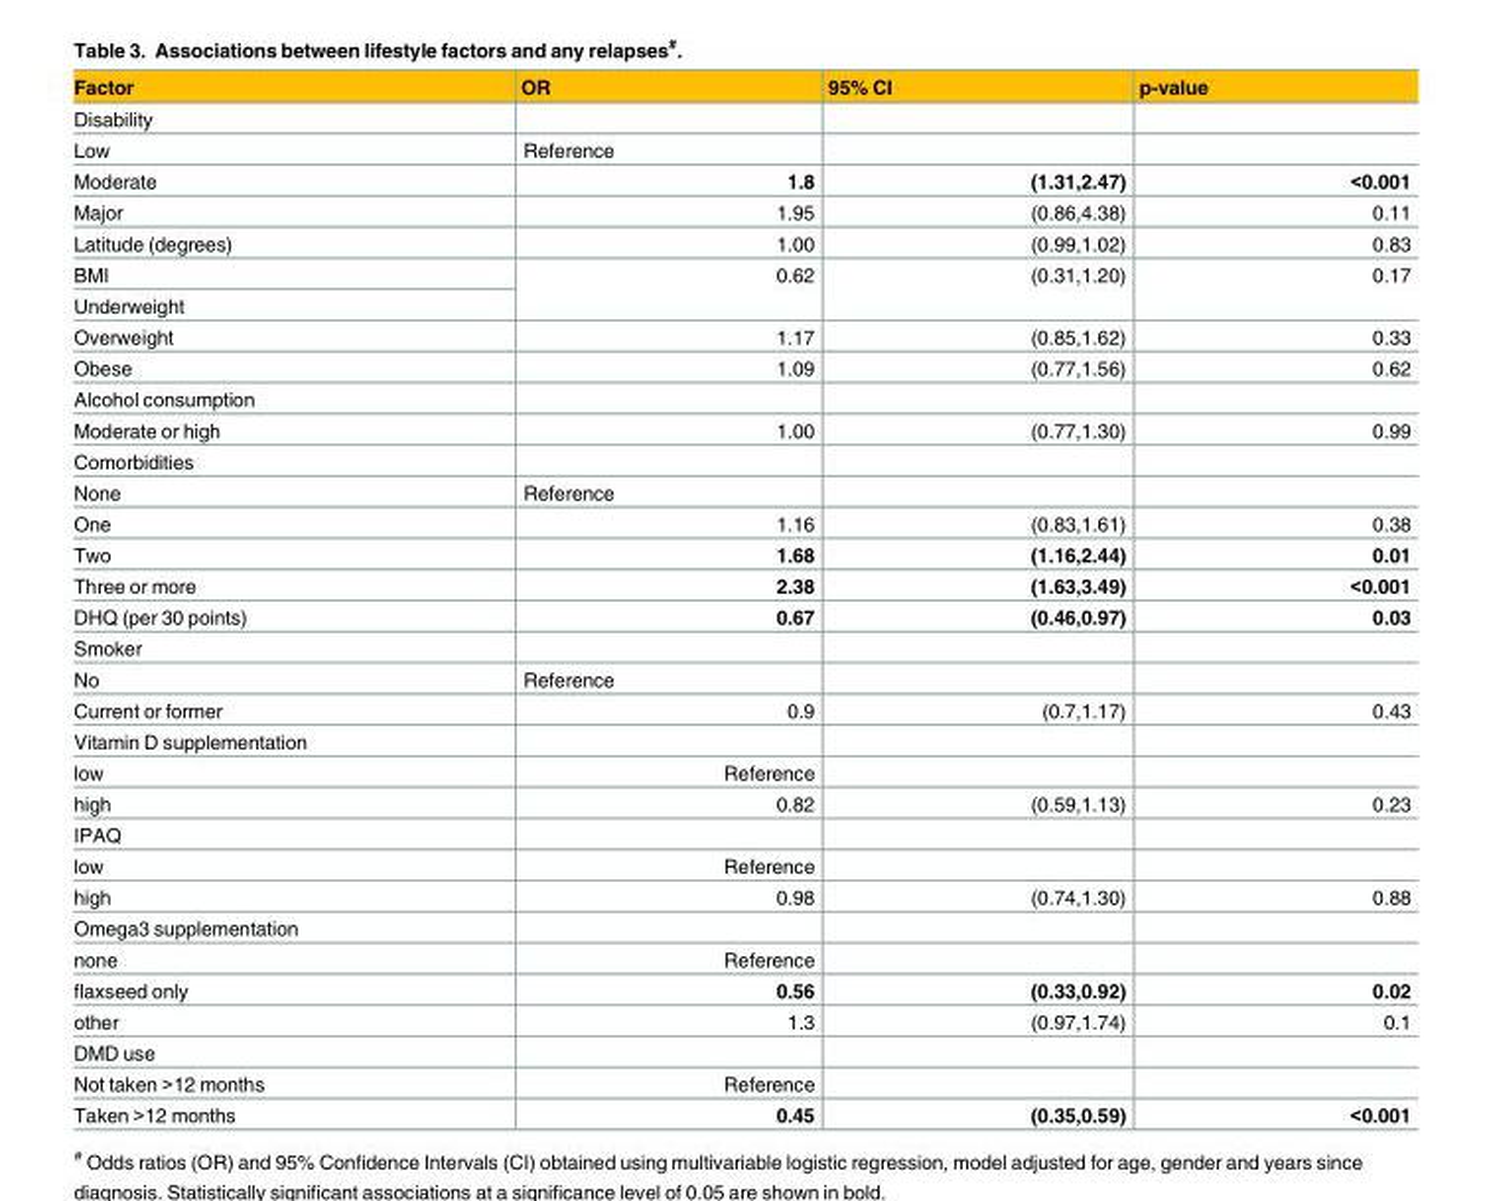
<table><thead><tr><td>Factor</td><td>OR</td><td>95% CI</td><td>p-value</td></tr></thead><tbody><tr><td colspan="4">Disability</td></tr><tr><td>Low</td><td>Reference</td><td></td><td></td></tr><tr><td>Moderate</td><td>1.8</td><td>(1.31,2.47)</td><td>&lt;0.001</td></tr><tr><td>Major</td><td>1.95</td><td>(0.86,4.38)</td><td>0.11</td></tr><tr><td>Latitude (degrees)</td><td>1.00</td><td>(0.99,1.02)</td><td>0.83</td></tr><tr><td>BMI</td><td rowspan="2">0.62</td><td rowspan="2">(0.31,1.20)</td><td rowspan="2">0.17</td></tr><tr><td>Underweight</td></tr><tr><td>Overweight</td><td>1.17</td><td>(0.85,1.62)</td><td>0.33</td></tr><tr><td>Obese</td><td>1.09</td><td>(0.77,1.56)</td><td>0.62</td></tr><tr><td colspan="4">Alcohol consumption</td></tr><tr><td>Moderate or high</td><td>1.00</td><td>(0.77,1.30)</td><td>0.99</td></tr><tr><td colspan="4">Comorbidities</td></tr><tr><td>None</td><td>Reference</td><td></td><td></td></tr><tr><td>One</td><td>1.16</td><td>(0.83,1.61)</td><td>0.38</td></tr><tr><td>Two</td><td>1.68</td><td>(1.16,2.44)</td><td>0.01</td></tr><tr><td>Three or more</td><td>2.38</td><td>(1.63,3.49)</td><td>&lt;0.001</td></tr><tr><td>DHQ (per 30 points)</td><td>0.67</td><td>(0.46,0.97)</td><td>0.03</td></tr><tr><td colspan="4">Smoker</td></tr><tr><td>No</td><td>Reference</td><td></td><td></td></tr><tr><td>Current or former</td><td>0.9</td><td>(0.7,1.17)</td><td>0.43</td></tr><tr><td colspan="4">Vitamin D supplementation</td></tr><tr><td>low</td><td>Reference</td><td></td><td></td></tr><tr><td>high</td><td>0.82</td><td>(0.59,1.13)</td><td>0.23</td></tr><tr><td colspan="4">IPAQ</td></tr><tr><td>low</td><td>Reference</td><td></td><td></td></tr><tr><td>high</td><td>0.98</td><td>(0.74,1.30)</td><td>0.88</td></tr><tr><td colspan="4">Omega3 supplementation</td></tr><tr><td>none</td><td>Reference</td><td></td><td></td></tr><tr><td>flaxseed only</td><td>0.56</td><td>(0.33,0.92)</td><td>0.02</td></tr><tr><td>other</td><td>1.3</td><td>(0.97,1.74)</td><td>0.1</td></tr><tr><td colspan="4">DMD use</td></tr><tr><td>Not taken &gt;12 months</td><td>Reference</td><td></td><td></td></tr><tr><td>Taken &gt;12 months</td><td>0.45</td><td>(0.35,0.59)</td><td>&lt;0.001</td></tr></tbody></table>